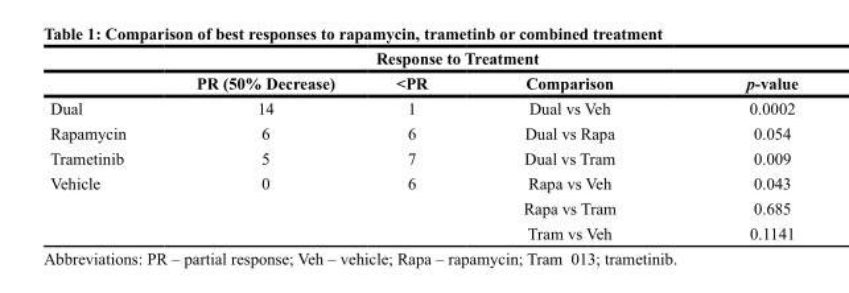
<table><thead><tr><td colspan="5">Response to Treatment</td></tr><tr><td></td><td>PR (50% Decrease)</td><td>&lt;PR</td><td>Comparison</td><td>p-value</td></tr></thead><tbody><tr><td>Dual</td><td>14</td><td>1</td><td>Dual vs Veh</td><td>0.0002</td></tr><tr><td>Rapamycin</td><td>6</td><td>6</td><td>Dual vs Rapa</td><td>0.054</td></tr><tr><td>Trametinib</td><td>5</td><td>7</td><td>Dual vs Tram</td><td>0.009</td></tr><tr><td rowspan="3">Vehicle</td><td>0</td><td>6</td><td>Rapa vs Veh</td><td>0.043</td></tr><tr><td></td><td></td><td>Rapa vs Tram</td><td>0.685</td></tr><tr><td></td><td></td><td>Tram vs Veh</td><td>0.1141</td></tr></tbody></table>